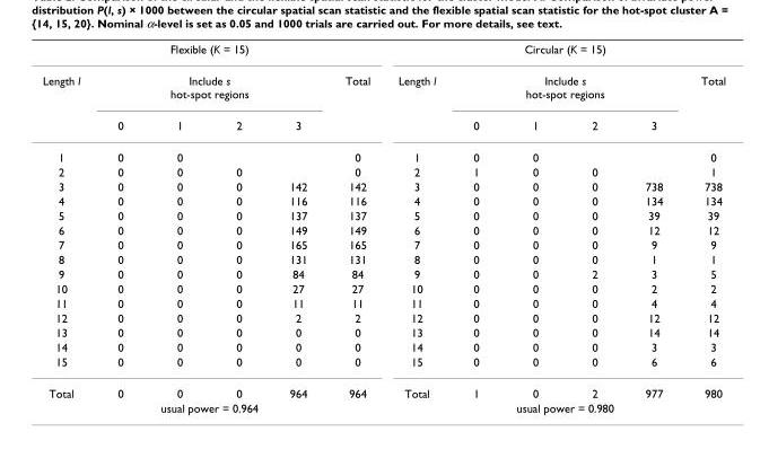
<table><tbody><tr><td colspan="6">Flexible (K = 15)</td><td colspan="6">Circular (K = 15)</td></tr><tr><td rowspan="2">Length l</td><td colspan="4">Include s hot-spot regions</td><td>Total</td><td>Length l</td><td colspan="4">Include s hot-spot regions</td><td>Total</td></tr><tr><td>0</td><td>1</td><td>2</td><td>3</td><td></td><td></td><td>0</td><td>1</td><td>2</td><td>3</td><td></td></tr><tr><td>1</td><td>0</td><td>0</td><td></td><td></td><td>0</td><td>1</td><td>0</td><td>0</td><td></td><td></td><td>0</td></tr><tr><td>2</td><td>0</td><td>0</td><td>0</td><td></td><td>0</td><td>2</td><td>1</td><td>0</td><td>0</td><td></td><td>1</td></tr><tr><td>3</td><td>0</td><td>0</td><td>0</td><td>142</td><td>142</td><td>3</td><td>0</td><td>0</td><td>0</td><td>738</td><td>738</td></tr><tr><td>4</td><td>0</td><td>0</td><td>0</td><td>116</td><td>116</td><td>4</td><td>0</td><td>0</td><td>0</td><td>134</td><td>134</td></tr><tr><td>5</td><td>0</td><td>0</td><td>0</td><td>137</td><td>137</td><td>5</td><td>0</td><td>0</td><td>0</td><td>39</td><td>39</td></tr><tr><td>6</td><td>0</td><td>0</td><td>0</td><td>149</td><td>149</td><td>6</td><td>0</td><td>0</td><td>0</td><td>12</td><td>12</td></tr><tr><td>7</td><td>0</td><td>0</td><td>0</td><td>165</td><td>165</td><td>7</td><td>0</td><td>0</td><td>0</td><td>9</td><td>9</td></tr><tr><td>8</td><td>0</td><td>0</td><td>0</td><td>131</td><td>131</td><td>8</td><td>0</td><td>0</td><td>0</td><td>1</td><td>1</td></tr><tr><td>9</td><td>0</td><td>0</td><td>0</td><td>84</td><td>84</td><td>9</td><td>0</td><td>0</td><td>2</td><td>3</td><td>5</td></tr><tr><td>10</td><td>0</td><td>0</td><td>0</td><td>27</td><td>27</td><td>10</td><td>0</td><td>0</td><td>0</td><td>2</td><td>2</td></tr><tr><td>11</td><td>0</td><td>0</td><td>0</td><td>11</td><td>11</td><td>11</td><td>0</td><td>0</td><td>0</td><td>4</td><td>4</td></tr><tr><td>12</td><td>0</td><td>0</td><td>0</td><td>2</td><td>2</td><td>12</td><td>0</td><td>0</td><td>0</td><td>12</td><td>12</td></tr><tr><td>13</td><td>0</td><td>0</td><td>0</td><td>0</td><td>0</td><td>13</td><td>0</td><td>0</td><td>0</td><td>14</td><td>14</td></tr><tr><td>14</td><td>0</td><td>0</td><td>0</td><td>0</td><td>0</td><td>14</td><td>0</td><td>0</td><td>0</td><td>3</td><td>3</td></tr><tr><td>15</td><td>0</td><td>0</td><td>0</td><td>0</td><td>0</td><td>15</td><td>0</td><td>0</td><td>0</td><td>6</td><td>6</td></tr><tr><td rowspan="2">Total</td><td>0</td><td>0</td><td>0</td><td>964</td><td>964</td><td>Total</td><td>1</td><td>0</td><td>2</td><td>977</td><td>980</td></tr><tr><td colspan="4">usual power = 0.964</td><td></td><td></td><td colspan="4">usual power = 0.980</td><td></td></tr></tbody></table>